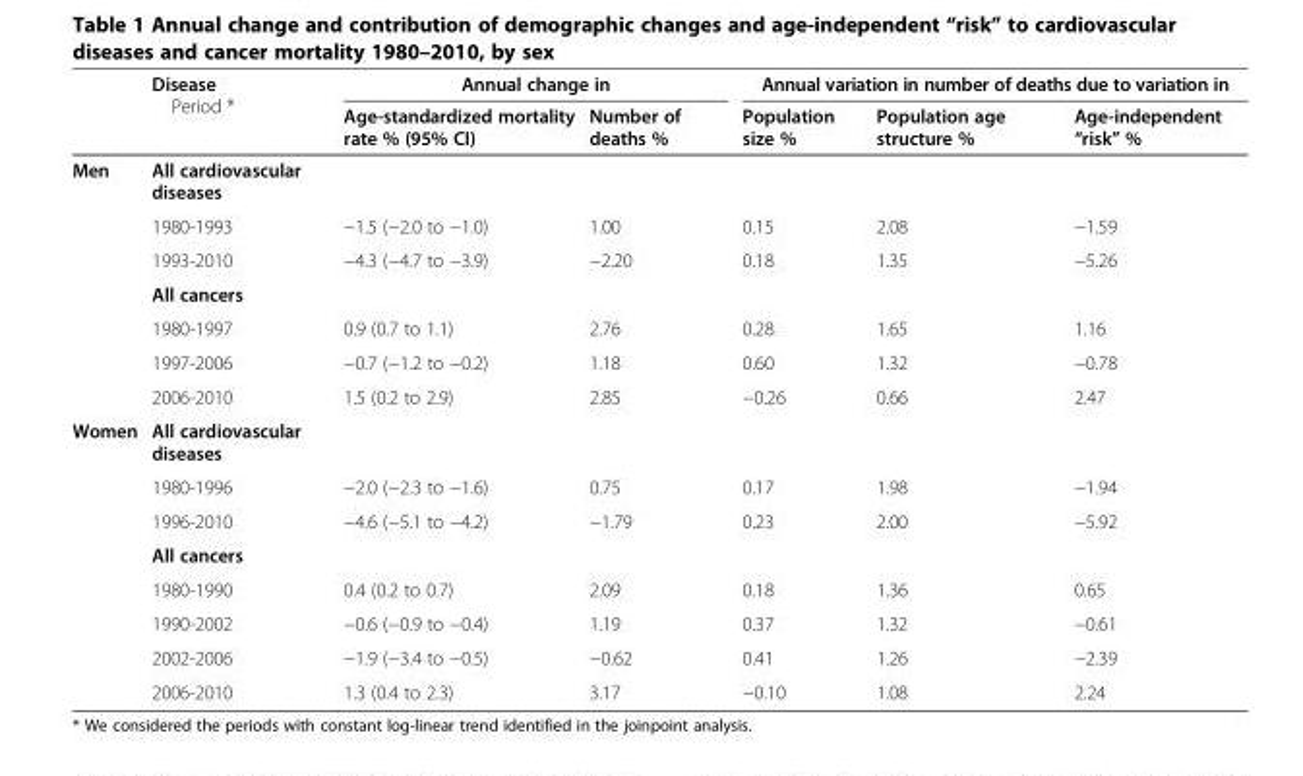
<table><thead><tr><td rowspan="2"></td><td rowspan="2">Disease Period *</td><td colspan="2">Annual change in</td><td colspan="3">Annual variation in number of deaths due to variation in</td></tr><tr><td>Age-standardized mortality rate % (95% CI)</td><td>Number of deaths %</td><td>Population size %</td><td>Population age structure %</td><td>Age-independent “risk” %</td></tr></thead><tbody><tr><td rowspan="7">Men</td><td>All cardiovascular diseases</td><td></td><td></td><td></td><td></td><td></td></tr><tr><td>1980-1993</td><td>−1.5 (−2.0 to −1.0)</td><td>1.00</td><td>0.15</td><td>2.08</td><td>−1.59</td></tr><tr><td>1993-2010</td><td>−4.3 (−4.7 to −3.9)</td><td>−2.20</td><td>0.18</td><td>1.35</td><td>−5.26</td></tr><tr><td>All cancers</td><td></td><td></td><td></td><td></td><td></td></tr><tr><td>1980-1997</td><td>0.9 (0.7 to 1.1)</td><td>2.76</td><td>0.28</td><td>1.65</td><td>1.16</td></tr><tr><td>1997-2006</td><td>−0.7 (−1.2 to −0.2)</td><td>1.18</td><td>0.60</td><td>1.32</td><td>−0.78</td></tr><tr><td>2006-2010</td><td>1.5 (0.2 to 2.9)</td><td>2.85</td><td>−0.26</td><td>0.66</td><td>2.47</td></tr><tr><td rowspan="8">Women</td><td>All cardiovascular diseases</td><td></td><td></td><td></td><td></td><td></td></tr><tr><td>1980-1996</td><td>−2.0 (−2.3 to −1.6)</td><td>0.75</td><td>0.17</td><td>1.98</td><td>−1.94</td></tr><tr><td>1996-2010</td><td>−4.6 (−5.1 to −4.2)</td><td>−1.79</td><td>0.23</td><td>2.00</td><td>−5.92</td></tr><tr><td>All cancers</td><td></td><td></td><td></td><td></td><td></td></tr><tr><td>1980-1990</td><td>0.4 (0.2 to 0.7)</td><td>2.09</td><td>0.18</td><td>1.36</td><td>0.65</td></tr><tr><td>1990-2002</td><td>−0.6 (−0.9 to −0.4)</td><td>1.19</td><td>0.37</td><td>1.32</td><td>−0.61</td></tr><tr><td>2002-2006</td><td>−1.9 (−3.4 to −0.5)</td><td>−0.62</td><td>0.41</td><td>1.26</td><td>−2.39</td></tr><tr><td>2006-2010</td><td>1.3 (0.4 to 2.3)</td><td>3.17</td><td>−0.10</td><td>1.08</td><td>2.24</td></tr></tbody></table>